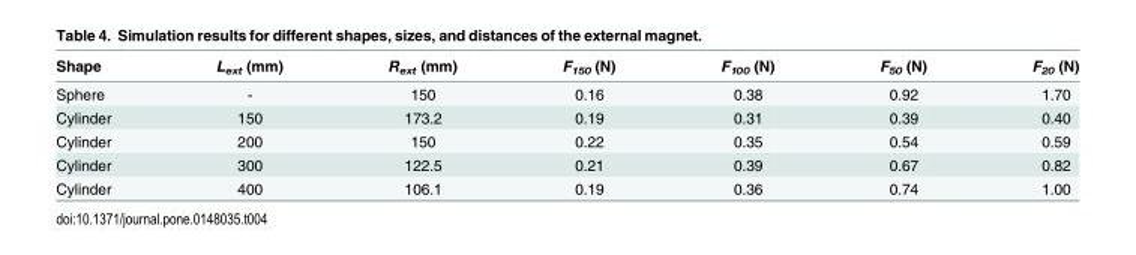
<table><thead><tr><td>Shape</td><td>L<sub>ext</sub> (mm)</td><td>R<sub>ext</sub> (mm)</td><td>F<sub>150</sub> (N)</td><td>F<sub>100</sub> (N)</td><td>F<sub>50</sub> (N)</td><td>F<sub>20</sub> (N)</td></tr></thead><tbody><tr><td>Sphere</td><td>-</td><td>150</td><td>0.16</td><td>0.38</td><td>0.92</td><td>1.70</td></tr><tr><td>Cylinder</td><td>150</td><td>173.2</td><td>0.19</td><td>0.31</td><td>0.39</td><td>0.40</td></tr><tr><td>Cylinder</td><td>200</td><td>150</td><td>0.22</td><td>0.35</td><td>0.54</td><td>0.59</td></tr><tr><td>Cylinder</td><td>300</td><td>122.5</td><td>0.21</td><td>0.39</td><td>0.67</td><td>0.82</td></tr><tr><td>Cylinder</td><td>400</td><td>106.1</td><td>0.19</td><td>0.36</td><td>0.74</td><td>1.00</td></tr></tbody></table>